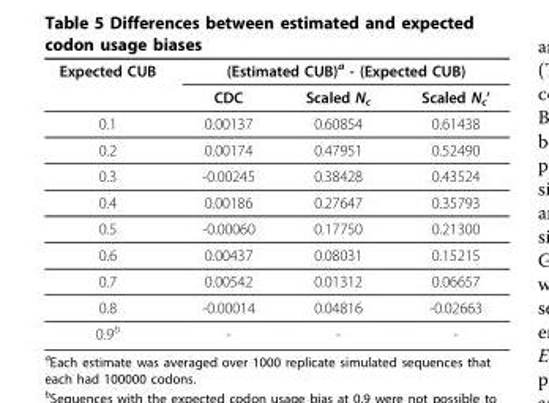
<table><thead><tr><td rowspan="2">Expected CUB</td><td colspan="3">(Estimated CUB)<sup>a</sup> - (Expected CUB)</td></tr><tr><td>CDC</td><td>Scaled N<sub>c</sub></td><td>Scaled N<sub>c</sub>’</td></tr></thead><tbody><tr><td>0.1</td><td>0.00137</td><td>0.60854</td><td>0.61438</td></tr><tr><td>0.2</td><td>0.00174</td><td>0.47951</td><td>0.52490</td></tr><tr><td>0.3</td><td>-0.00245</td><td>0.38428</td><td>0.43524</td></tr><tr><td>0.4</td><td>0.00186</td><td>0.27647</td><td>0.35793</td></tr><tr><td>0.5</td><td>-0.00060</td><td>0.17750</td><td>0.21300</td></tr><tr><td>0.6</td><td>0.00437</td><td>0.08031</td><td>0.15215</td></tr><tr><td>0.7</td><td>0.00542</td><td>0.01312</td><td>0.06657</td></tr><tr><td>0.8</td><td>-0.00014</td><td>0.04816</td><td>-0.02663</td></tr><tr><td>0.9<sup>b</sup></td><td>-</td><td>-</td><td>-</td></tr></tbody></table>